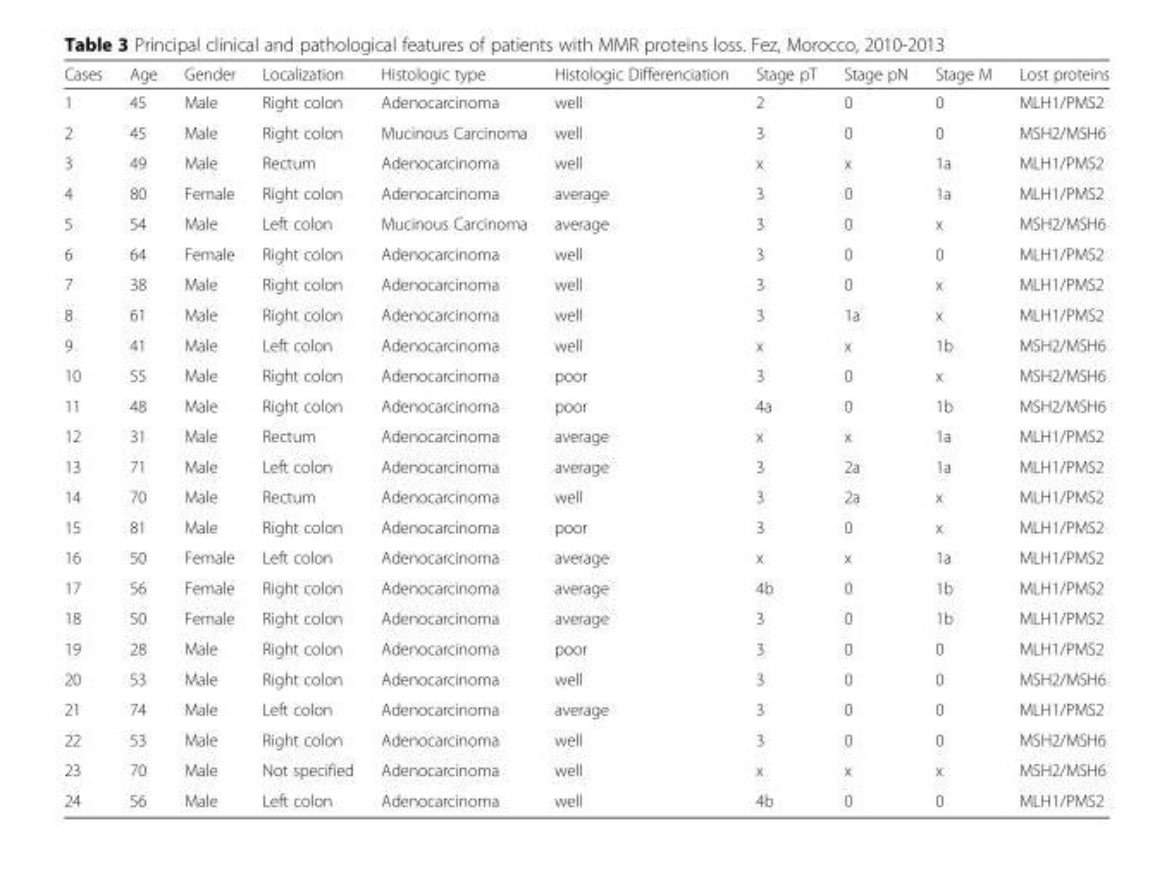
<table><thead><tr><td>Cases</td><td>Age</td><td>Gender</td><td>Localization</td><td>Histologic type</td><td>Histologic Differenciation</td><td>Stage pT</td><td>Stage pN</td><td>Stage M</td><td>Lost proteins</td></tr></thead><tbody><tr><td>1</td><td>45</td><td>Male</td><td>Right colon</td><td>Adenocarcinoma</td><td>well</td><td>2</td><td>0</td><td>0</td><td>MLH1/PMS2</td></tr><tr><td>2</td><td>45</td><td>Male</td><td>Right colon</td><td>Mucinous Carcinoma</td><td>well</td><td>3</td><td>0</td><td>0</td><td>MSH2/MSH6</td></tr><tr><td>3</td><td>49</td><td>Male</td><td>Rectum</td><td>Adenocarcinoma</td><td>well</td><td>x</td><td>x</td><td>1a</td><td>MLH1/PMS2</td></tr><tr><td>4</td><td>80</td><td>Female</td><td>Right colon</td><td>Adenocarcinoma</td><td>average</td><td>3</td><td>0</td><td>1a</td><td>MLH1/PMS2</td></tr><tr><td>5</td><td>54</td><td>Male</td><td>Left colon</td><td>Mucinous Carcinoma</td><td>average</td><td>3</td><td>0</td><td>x</td><td>MSH2/MSH6</td></tr><tr><td>6</td><td>64</td><td>Female</td><td>Right colon</td><td>Adenocarcinoma</td><td>well</td><td>3</td><td>0</td><td>0</td><td>MLH1/PMS2</td></tr><tr><td>7</td><td>38</td><td>Male</td><td>Right colon</td><td>Adenocarcinoma</td><td>well</td><td>3</td><td>0</td><td>x</td><td>MLH1/PMS2</td></tr><tr><td>8</td><td>61</td><td>Male</td><td>Right colon</td><td>Adenocarcinoma</td><td>well</td><td>3</td><td>1a</td><td>x</td><td>MLH1/PMS2</td></tr><tr><td>9</td><td>41</td><td>Male</td><td>Left colon</td><td>Adenocarcinoma</td><td>well</td><td>x</td><td>x</td><td>1b</td><td>MSH2/MSH6</td></tr><tr><td>10</td><td>55</td><td>Male</td><td>Right colon</td><td>Adenocarcinoma</td><td>poor</td><td>3</td><td>0</td><td>x</td><td>MSH2/MSH6</td></tr><tr><td>11</td><td>48</td><td>Male</td><td>Right colon</td><td>Adenocarcinoma</td><td>poor</td><td>4a</td><td>0</td><td>1b</td><td>MSH2/MSH6</td></tr><tr><td>12</td><td>31</td><td>Male</td><td>Rectum</td><td>Adenocarcinoma</td><td>average</td><td>x</td><td>x</td><td>1a</td><td>MLH1/PMS2</td></tr><tr><td>13</td><td>71</td><td>Male</td><td>Left colon</td><td>Adenocarcinoma</td><td>average</td><td>3</td><td>2a</td><td>1a</td><td>MLH1/PMS2</td></tr><tr><td>14</td><td>70</td><td>Male</td><td>Rectum</td><td>Adenocarcinoma</td><td>well</td><td>3</td><td>2a</td><td>x</td><td>MLH1/PMS2</td></tr><tr><td>15</td><td>81</td><td>Male</td><td>Right colon</td><td>Adenocarcinoma</td><td>poor</td><td>3</td><td>0</td><td>x</td><td>MLH1/PMS2</td></tr><tr><td>16</td><td>50</td><td>Female</td><td>Left colon</td><td>Adenocarcinoma</td><td>average</td><td>x</td><td>x</td><td>1a</td><td>MLH1/PMS2</td></tr><tr><td>17</td><td>56</td><td>Female</td><td>Right colon</td><td>Adenocarcinoma</td><td>average</td><td>4b</td><td>0</td><td>1b</td><td>MLH1/PMS2</td></tr><tr><td>18</td><td>50</td><td>Female</td><td>Right colon</td><td>Adenocarcinoma</td><td>average</td><td>3</td><td>0</td><td>1b</td><td>MLH1/PMS2</td></tr><tr><td>19</td><td>28</td><td>Male</td><td>Right colon</td><td>Adenocarcinoma</td><td>poor</td><td>3</td><td>0</td><td>0</td><td>MLH1/PMS2</td></tr><tr><td>20</td><td>53</td><td>Male</td><td>Right colon</td><td>Adenocarcinoma</td><td>well</td><td>3</td><td>0</td><td>0</td><td>MSH2/MSH6</td></tr><tr><td>21</td><td>74</td><td>Male</td><td>Left colon</td><td>Adenocarcinoma</td><td>average</td><td>3</td><td>0</td><td>0</td><td>MLH1/PMS2</td></tr><tr><td>22</td><td>53</td><td>Male</td><td>Right colon</td><td>Adenocarcinoma</td><td>well</td><td>3</td><td>0</td><td>0</td><td>MSH2/MSH6</td></tr><tr><td>23</td><td>70</td><td>Male</td><td>Not specified</td><td>Adenocarcinoma</td><td>well</td><td>x</td><td>x</td><td>x</td><td>MSH2/MSH6</td></tr><tr><td>24</td><td>56</td><td>Male</td><td>Left colon</td><td>Adenocarcinoma</td><td>well</td><td>4b</td><td>0</td><td>0</td><td>MLH1/PMS2</td></tr></tbody></table>